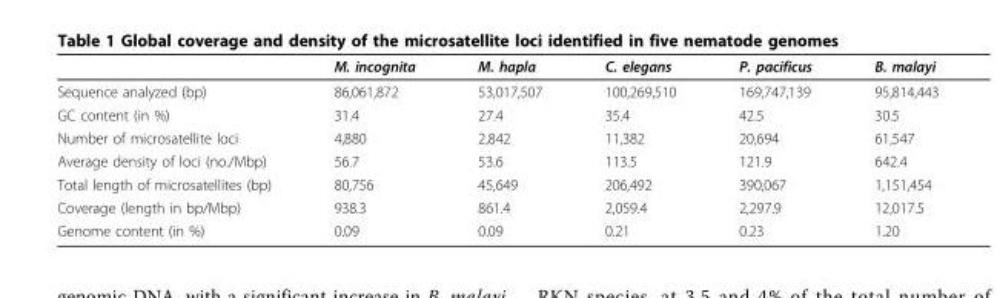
<table><thead><tr><td></td><td>M. incognita</td><td>M. hapla</td><td>C. elegans</td><td>P. pacificus</td><td>B. malayi</td></tr></thead><tbody><tr><td>Sequence analyzed (bp)</td><td>86,061,872</td><td>53,017,507</td><td>100,269,510</td><td>169,747,139</td><td>95,814,443</td></tr><tr><td>GC content (in %)</td><td>31.4</td><td>27.4</td><td>35.4</td><td>42.5</td><td>30.5</td></tr><tr><td>Number of microsatellite loci</td><td>4,880</td><td>2,842</td><td>11,382</td><td>20,694</td><td>61,547</td></tr><tr><td>Average density of loci (no./Mbp)</td><td>56.7</td><td>53.6</td><td>113.5</td><td>121.9</td><td>642.4</td></tr><tr><td>Total length of microsatellites (bp)</td><td>80,756</td><td>45,649</td><td>206,492</td><td>390,067</td><td>1,151,454</td></tr><tr><td>Coverage (length in bp/Mbp)</td><td>938.3</td><td>861.4</td><td>2,059.4</td><td>2,297.9</td><td>12,017.5</td></tr><tr><td>Genome content (in %)</td><td>0.09</td><td>0.09</td><td>0.21</td><td>0.23</td><td>1.20</td></tr></tbody></table>